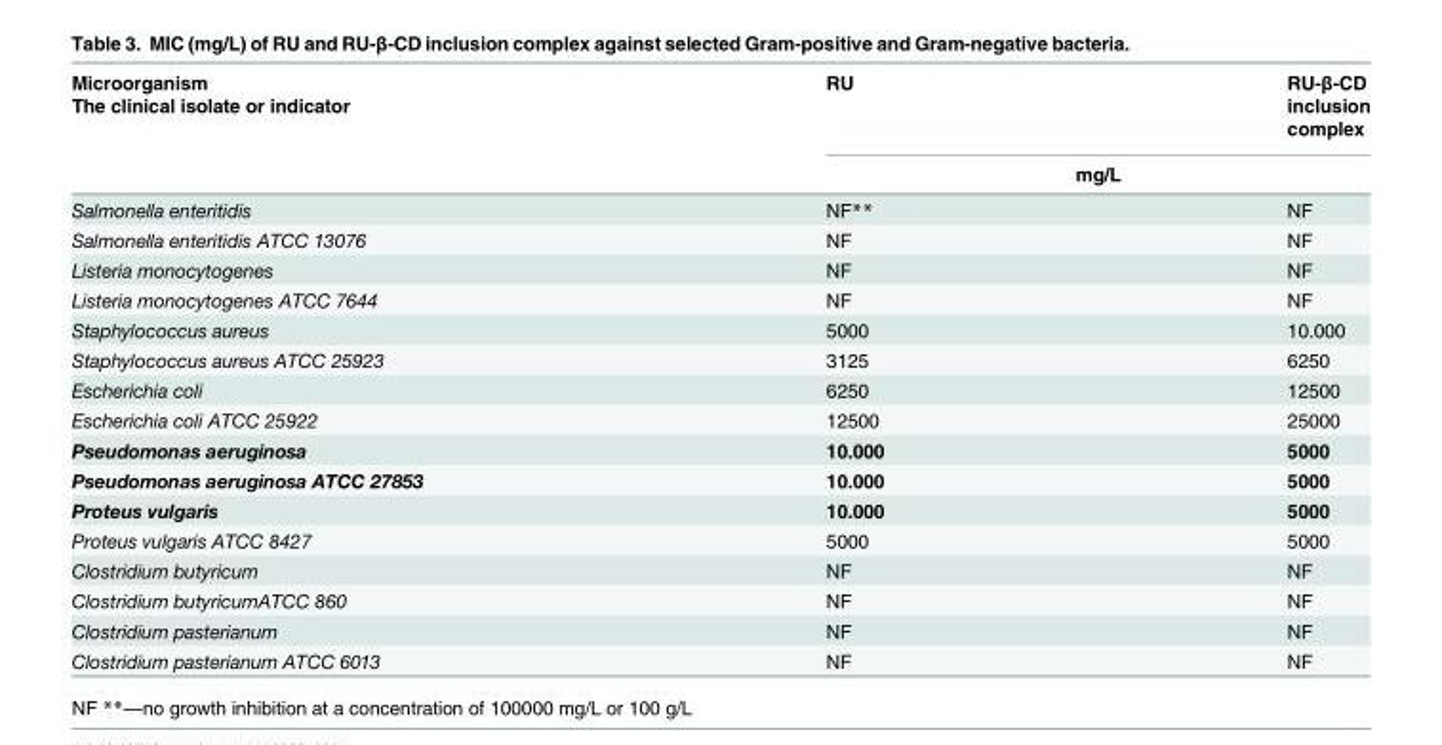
<table><thead><tr><td rowspan="4">Microorganism The clinical isolate or indicator</td><td rowspan="3">RU</td><td rowspan="3">RU-β-CD inclusion complex</td></tr><tr></tr><tr></tr><tr><td colspan="2">mg/L</td></tr></thead><tbody><tr><td>Salmonella enteritidis</td><td>NF**</td><td>NF</td></tr><tr><td>Salmonella enteritidis ATCC 13076</td><td>NF</td><td>NF</td></tr><tr><td>Listeria monocytogenes</td><td>NF</td><td>NF</td></tr><tr><td>Listeria monocytogenes ATCC 7644</td><td>NF</td><td>NF</td></tr><tr><td>Staphylococcus aureus</td><td>5000</td><td>10.000</td></tr><tr><td>Staphylococcus aureus ATCC 25923</td><td>3125</td><td>6250</td></tr><tr><td>Escherichia coli</td><td>6250</td><td>12500</td></tr><tr><td>Escherichia coli ATCC 25922</td><td>12500</td><td>25000</td></tr><tr><td>Pseudomonas aeruginosa</td><td>10.000</td><td>5000</td></tr><tr><td>Pseudomonas aeruginosa ATCC 27853</td><td>10.000</td><td>5000</td></tr><tr><td>Proteus vulgaris</td><td>10.000</td><td>5000</td></tr><tr><td>Proteus vulgaris ATCC 8427</td><td>5000</td><td>5000</td></tr><tr><td>Clostridium butyricum</td><td>NF</td><td>NF</td></tr><tr><td>Clostridium butyricumATCC 860</td><td>NF</td><td>NF</td></tr><tr><td>Clostridium pasterianum</td><td>NF</td><td>NF</td></tr><tr><td>Clostridium pasterianum ATCC 6013</td><td>NF</td><td>NF</td></tr></tbody></table>